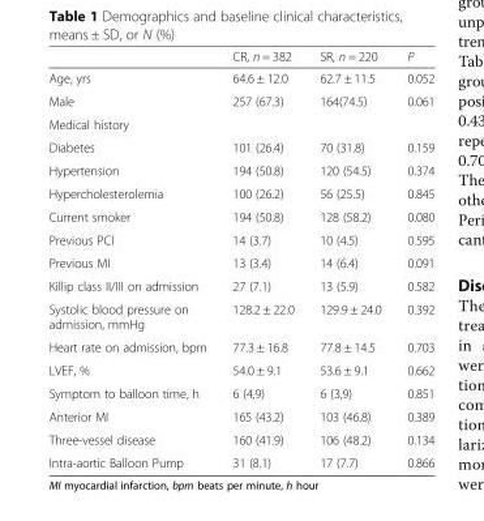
<table><thead><tr><td></td><td>CR, n = 382</td><td>SR, n = 220</td><td>P</td></tr></thead><tbody><tr><td>Age, yrs</td><td>64.6 ± 12.0</td><td>62.7 ± 11.5</td><td>0.052</td></tr><tr><td>Male</td><td>257 (67.3)</td><td>164(74.5)</td><td>0.061</td></tr><tr><td colspan="4">Medical history</td></tr><tr><td>Diabetes</td><td>101 (26.4)</td><td>70 (31.8)</td><td>0.159</td></tr><tr><td>Hypertension</td><td>194 (50.8)</td><td>120 (54.5)</td><td>0.374</td></tr><tr><td>Hypercholesterolemia</td><td>100 (26.2)</td><td>56 (25.5)</td><td>0.845</td></tr><tr><td>Current smoker</td><td>194 (50.8)</td><td>128 (58.2)</td><td>0.080</td></tr><tr><td>Previous PCI</td><td>14 (3.7)</td><td>10 (4.5)</td><td>0.595</td></tr><tr><td>Previous MI</td><td>13 (3.4)</td><td>14 (6.4)</td><td>0.091</td></tr><tr><td>Killip class II/III on admission</td><td>27 (7.1)</td><td>13 (5.9)</td><td>0.582</td></tr><tr><td>Systolic blood pressure on admission, mmHg</td><td>128.2 ± 22.0</td><td>129.9 ± 24.0</td><td>0.392</td></tr><tr><td>Heart rate on admission, bpm</td><td>77.3 ± 16.8</td><td>77.8 ± 14.5</td><td>0.703</td></tr><tr><td>LVEF, %</td><td>54.0 ± 9.1</td><td>53.6 ± 9.1</td><td>0.662</td></tr><tr><td>Symptom to balloon time, h</td><td>6 (4,9)</td><td>6 (3,9)</td><td>0.851</td></tr><tr><td>Anterior MI</td><td>165 (43.2)</td><td>103 (46.8)</td><td>0.389</td></tr><tr><td>Three-vessel disease</td><td>160 (41.9)</td><td>106 (48.2)</td><td>0.134</td></tr><tr><td>Intra-aortic Balloon Pump</td><td>31 (8.1)</td><td>17 (7.7)</td><td>0.866</td></tr></tbody></table>